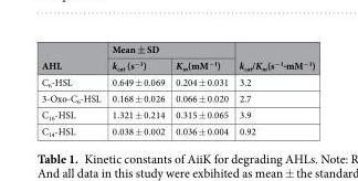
<table><thead><tr><td rowspan="2">AHL</td><td colspan="2">Mean ± SD</td><td rowspan="2">k<sub>cat</sub>/K<sub>m</sub>(s<sup>−1</sup>·mM<sup>−1</sup>)</td></tr><tr><td>k<sub>cat</sub> (s<sup>−1</sup>)</td><td>K<sub>m</sub>(mM<sup>−1</sup>)</td></tr></thead><tbody><tr><td>C<sub>6</sub>-HSL</td><td>0.649 ± 0.069</td><td>0.204 ± 0.031</td><td>3.2</td></tr><tr><td>3-Oxo-C<sub>6</sub>-HSL</td><td>0.168 ± 0.026</td><td>0.066 ± 0.020</td><td>2.7</td></tr><tr><td>C<sub>10</sub>-HSL</td><td>1.321 ± 0.214</td><td>0.315 ± 0.065</td><td>3.9</td></tr><tr><td>C<sub>14</sub>-HSL</td><td>0.038 ± 0.002</td><td>0.036 ± 0.004</td><td>0.92</td></tr></tbody></table>